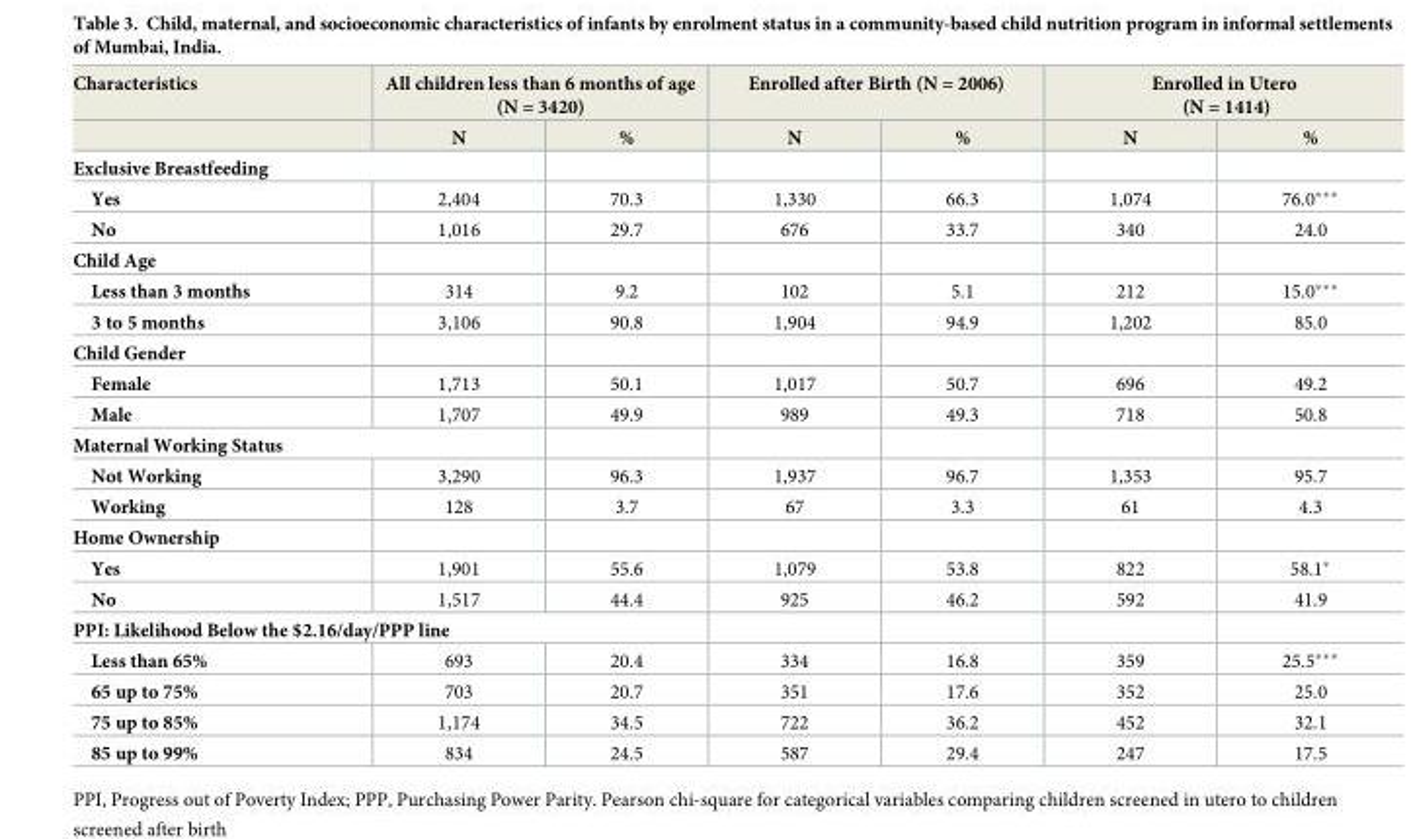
<table><thead><tr><td rowspan="2">Characteristics</td><td colspan="2">All children less than 6 months of age (N = 3420)</td><td colspan="2">Enrolled after Birth (N = 2006)</td><td colspan="2">Enrolled in Utero (N = 1414)</td></tr><tr><td>N</td><td>%</td><td>N</td><td>%</td><td>N</td><td>%</td></tr></thead><tbody><tr><td colspan="7">Exclusive Breastfeeding</td></tr><tr><td>Yes</td><td>2,404</td><td>70.3</td><td>1,330</td><td>66.3</td><td>1,074</td><td>76.0***</td></tr><tr><td>No</td><td>1,016</td><td>29.7</td><td>676</td><td>33.7</td><td>340</td><td>24.0</td></tr><tr><td colspan="7">Child Age</td></tr><tr><td>Less than 3 months</td><td>314</td><td>9.2</td><td>102</td><td>5.1</td><td>212</td><td>15.0***</td></tr><tr><td>3 to 5 months</td><td>3,106</td><td>90.8</td><td>1,904</td><td>94.9</td><td>1,202</td><td>85.0</td></tr><tr><td colspan="7">Child Gender</td></tr><tr><td>Female</td><td>1,713</td><td>50.1</td><td>1,017</td><td>50.7</td><td>696</td><td>49.2</td></tr><tr><td>Male</td><td>1,707</td><td>49.9</td><td>989</td><td>49.3</td><td>718</td><td>50.8</td></tr><tr><td colspan="7">Maternal Working Status</td></tr><tr><td>Not Working</td><td>3,290</td><td>96.3</td><td>1,937</td><td>96.7</td><td>1,353</td><td>95.7</td></tr><tr><td>Working</td><td>128</td><td>3.7</td><td>67</td><td>3.3</td><td>61</td><td>4.3</td></tr><tr><td colspan="7">Home Ownership</td></tr><tr><td>Yes</td><td>1,901</td><td>55.6</td><td>1,079</td><td>53.8</td><td>822</td><td>58.1*</td></tr><tr><td>No</td><td>1,517</td><td>44.4</td><td>925</td><td>46.2</td><td>592</td><td>41.9</td></tr><tr><td colspan="7">PPI: Likelihood Below the $2.16/day/PPP line</td></tr><tr><td>Less than 65%</td><td>693</td><td>20.4</td><td>334</td><td>16.8</td><td>359</td><td>25.5***</td></tr><tr><td>65 up to 75%</td><td>703</td><td>20.7</td><td>351</td><td>17.6</td><td>352</td><td>25.0</td></tr><tr><td>75 up to 85%</td><td>1,174</td><td>34.5</td><td>722</td><td>36.2</td><td>452</td><td>32.1</td></tr><tr><td>85 up to 99%</td><td>834</td><td>24.5</td><td>587</td><td>29.4</td><td>247</td><td>17.5</td></tr></tbody></table>